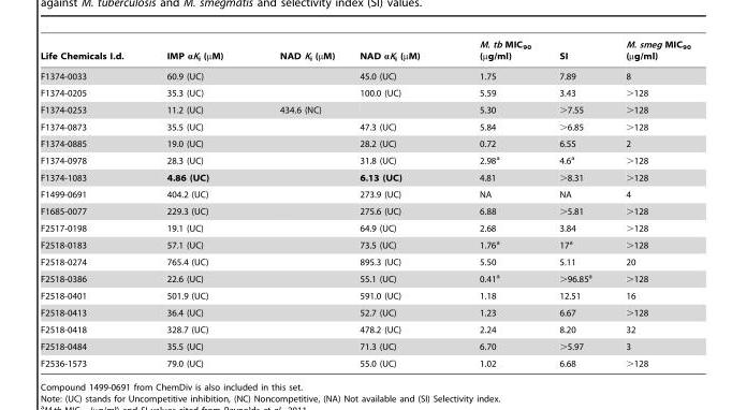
<table><thead><tr><td>Life Chemicals I.d.</td><td>IMP αK<sub>i</sub> (µM)</td><td>NAD K<sub>i</sub> (µM)</td><td>NAD αK<sub>i</sub> (µM)</td><td>M. tb MIC<sub>90</sub> (µg/ml)</td><td>SI</td><td>M. smeg MIC<sub>90</sub> (µg/ml)</td></tr></thead><tbody><tr><td>F1374-0033</td><td>60.9 (UC)</td><td></td><td>45.0 (UC)</td><td>1.75</td><td>7.89</td><td>8</td></tr><tr><td>F1374-0205</td><td>35.3 (UC)</td><td></td><td>100.0 (UC)</td><td>5.59</td><td>3.43</td><td>&gt;128</td></tr><tr><td>F1374-0253</td><td>11.2 (UC)</td><td>434.6 (NC)</td><td></td><td>5.30</td><td>&gt;7.55</td><td>&gt;128</td></tr><tr><td>F1374-0873</td><td>35.5 (UC)</td><td></td><td>47.3 (UC)</td><td>5.84</td><td>&gt;6.85</td><td>&gt;128</td></tr><tr><td>F1374-0885</td><td>19.0 (UC)</td><td></td><td>28.2 (UC)</td><td>0.72</td><td>6.55</td><td>2</td></tr><tr><td>F1374-0978</td><td>28.3 (UC)</td><td></td><td>31.8 (UC)</td><td>2.98<sup>a</sup></td><td>4.6<sup>a</sup></td><td>&gt;128</td></tr><tr><td>F1374-1083</td><td>4.86 (UC)</td><td></td><td>6.13 (UC)</td><td>4.81</td><td>&gt;8.31</td><td>&gt;128</td></tr><tr><td>F1499-0691</td><td>404.2 (UC)</td><td></td><td>273.9 (UC)</td><td>NA</td><td>NA</td><td>4</td></tr><tr><td>F1685-0077</td><td>229.3 (UC)</td><td></td><td>275.6 (UC)</td><td>6.88</td><td>&gt;5.81</td><td>&gt;128</td></tr><tr><td>F2517-0198</td><td>19.1 (UC)</td><td></td><td>64.9 (UC)</td><td>2.68</td><td>3.84</td><td>&gt;128</td></tr><tr><td>F2518-0183</td><td>57.1 (UC)</td><td></td><td>73.5 (UC)</td><td>1.76<sup>a</sup></td><td>17<sup>a</sup></td><td>&gt;128</td></tr><tr><td>F2518-0274</td><td>765.4 (UC)</td><td></td><td>895.3 (UC)</td><td>5.50</td><td>5.11</td><td>20</td></tr><tr><td>F2518-0386</td><td>22.6 (UC)</td><td></td><td>55.1 (UC)</td><td>0.41<sup>a</sup></td><td>&gt;96.85<sup>a</sup></td><td>&gt;128</td></tr><tr><td>F2518-0401</td><td>501.9 (UC)</td><td></td><td>591.0 (UC)</td><td>1.18</td><td>12.51</td><td>16</td></tr><tr><td>F2518-0413</td><td>36.4 (UC)</td><td></td><td>52.7 (UC)</td><td>1.23</td><td>6.67</td><td>&gt;128</td></tr><tr><td>F2518-0418</td><td>328.7 (UC)</td><td></td><td>478.2 (UC)</td><td>2.24</td><td>8.20</td><td>32</td></tr><tr><td>F2518-0484</td><td>35.5 (UC)</td><td></td><td>71.3 (UC)</td><td>6.70</td><td>&gt;5.97</td><td>3</td></tr><tr><td>F2536-1573</td><td>79.0 (UC)</td><td></td><td>55.0 (UC)</td><td>1.02</td><td>6.68</td><td>&gt;128</td></tr></tbody></table>